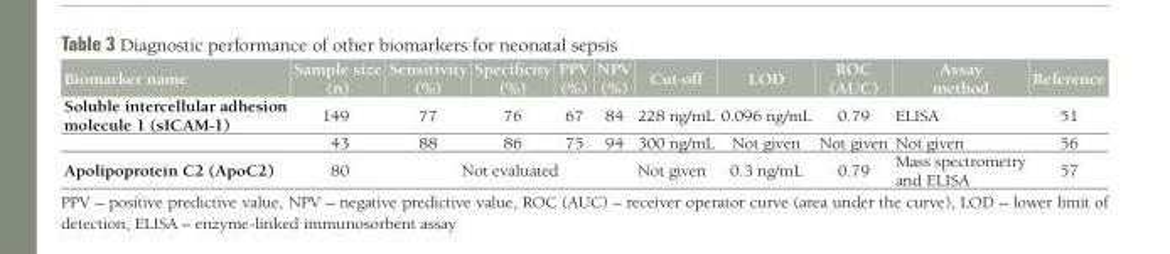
<table><thead><tr><td>Biomarker name</td><td>Sample size (n)</td><td>Sensitivity (%)</td><td>Specificity (%)</td><td>PPV (%)</td><td>NPV (%)</td><td>Cut-off</td><td>LOD</td><td>ROC (AUC)</td><td>Assay method</td><td>Reference</td></tr></thead><tbody><tr><td rowspan="2">Soluble intercellular adhesion molecule 1 (sICAM-1)</td><td>149</td><td>77</td><td>76</td><td>67</td><td>84</td><td>228 ng/mL</td><td>0.096 ng/mL</td><td>0.79</td><td>ELISA</td><td>51</td></tr><tr><td>43</td><td>88</td><td>86</td><td>75</td><td>94</td><td>300 ng/mL</td><td>Not given</td><td>Not given</td><td>Not given</td><td>56</td></tr><tr><td>Apolipoprotein C2 (ApoC2)</td><td>80</td><td colspan="4">Not evaluated</td><td>Not given</td><td>0.3 ng/mL</td><td>0.79</td><td>Mass spectrometry and ELISA</td><td>57</td></tr></tbody></table>